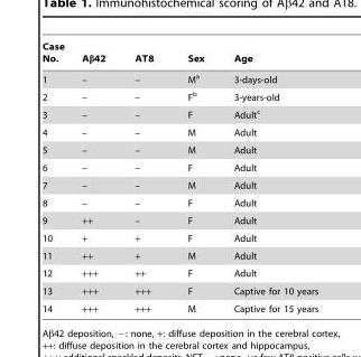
<table><thead><tr><td>Case No.</td><td>Aβ42</td><td>AT8</td><td>Sex</td><td>Age</td></tr></thead><tbody><tr><td>1</td><td>–</td><td>–</td><td>M<sup>a</sup></td><td>3-days-old</td></tr><tr><td>2</td><td>–</td><td>–</td><td>F<sup>b</sup></td><td>3-years-old</td></tr><tr><td>3</td><td>–</td><td>–</td><td>F</td><td>Adult<sup>c</sup></td></tr><tr><td>4</td><td>–</td><td>–</td><td>M</td><td>Adult</td></tr><tr><td>5</td><td>–</td><td>–</td><td>M</td><td>Adult</td></tr><tr><td>6</td><td>–</td><td>–</td><td>F</td><td>Adult</td></tr><tr><td>7</td><td>–</td><td>–</td><td>M</td><td>Adult</td></tr><tr><td>8</td><td>–</td><td>–</td><td>F</td><td>Adult</td></tr><tr><td>9</td><td>++</td><td>–</td><td>F</td><td>Adult</td></tr><tr><td>10</td><td>+</td><td>+</td><td>F</td><td>Adult</td></tr><tr><td>11</td><td>++</td><td>+</td><td>M</td><td>Adult</td></tr><tr><td>12</td><td>+++</td><td>++</td><td>F</td><td>Adult</td></tr><tr><td>13</td><td>+++</td><td>+++</td><td>F</td><td>Captive for 10 years</td></tr><tr><td>14</td><td>+++</td><td>+++</td><td>M</td><td>Captive for 15 years</td></tr></tbody></table>